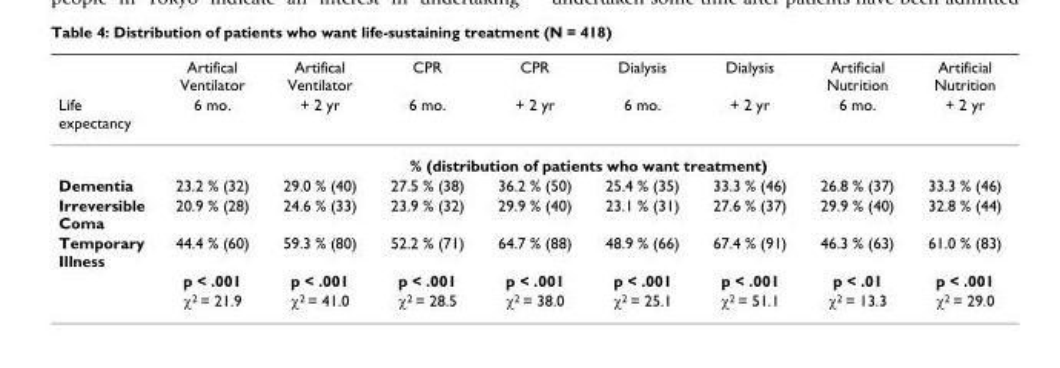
<table><thead><tr><td rowspan="2">Life expectancy</td><td rowspan="2">Artifical Ventilator 6 mo.</td><td rowspan="2">Artifical Ventilator + 2 yr</td><td rowspan="2">CPR 6 mo.</td><td rowspan="2">CPR + 2 yr</td><td rowspan="2">Dialysis 6 mo.</td><td rowspan="2">Dialysis + 2 yr</td><td rowspan="2">Artificial Nutrition 6 mo.</td><td rowspan="2">Artificial Nutrition + 2 yr</td></tr><tr></tr></thead><tbody><tr><td></td><td colspan="8">% (distribution of patients who want treatment)</td></tr><tr><td>Dementia</td><td>23.2 % (32)</td><td>29.0 % (40)</td><td>27.5 % (38)</td><td>36.2 % (50)</td><td>25.4 % (35)</td><td>33.3 % (46)</td><td>26.8 % (37)</td><td>33.3 % (46)</td></tr><tr><td>Irreversible Coma</td><td>20.9 % (28)</td><td>24.6 % (33)</td><td>23.9 % (32)</td><td>29.9 % (40)</td><td>23.1 % (31)</td><td>27.6 % (37)</td><td>29.9 % (40)</td><td>32.8 % (44)</td></tr><tr><td rowspan="3">Temporary Illness</td><td>44.4 % (60)</td><td>59.3 % (80)</td><td>52.2 % (71)</td><td>64.7 % (88)</td><td>48.9 % (66)</td><td>67.4 % (91)</td><td>46.3 % (63)</td><td>61.0 % (83)</td></tr><tr><td>p &lt; .001</td><td>p &lt; .001</td><td>p &lt; .001</td><td>p &lt; .001</td><td>p &lt; .001</td><td>p &lt; .001</td><td>p &lt; .01</td><td>p &lt; .001</td></tr><tr><td>χ<sup>2</sup> = 21.9</td><td>χ<sup>2</sup> = 41.0</td><td>χ<sup>2</sup> = 28.5</td><td>χ<sup>2</sup> = 38.0</td><td>χ<sup>2</sup> = 25.1</td><td>χ<sup>2</sup> = 51.1</td><td>χ<sup>2</sup> = 13.3</td><td>χ<sup>2</sup> = 29.0</td></tr></tbody></table>